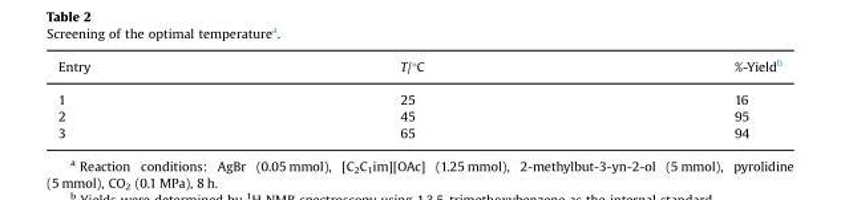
<table><thead><tr><td>Entry</td><td>T/°C</td><td>%-Yield<sup>b</sup></td></tr></thead><tbody><tr><td>1</td><td>25</td><td>16</td></tr><tr><td>2</td><td>45</td><td>95</td></tr><tr><td>3</td><td>65</td><td>94</td></tr></tbody></table>